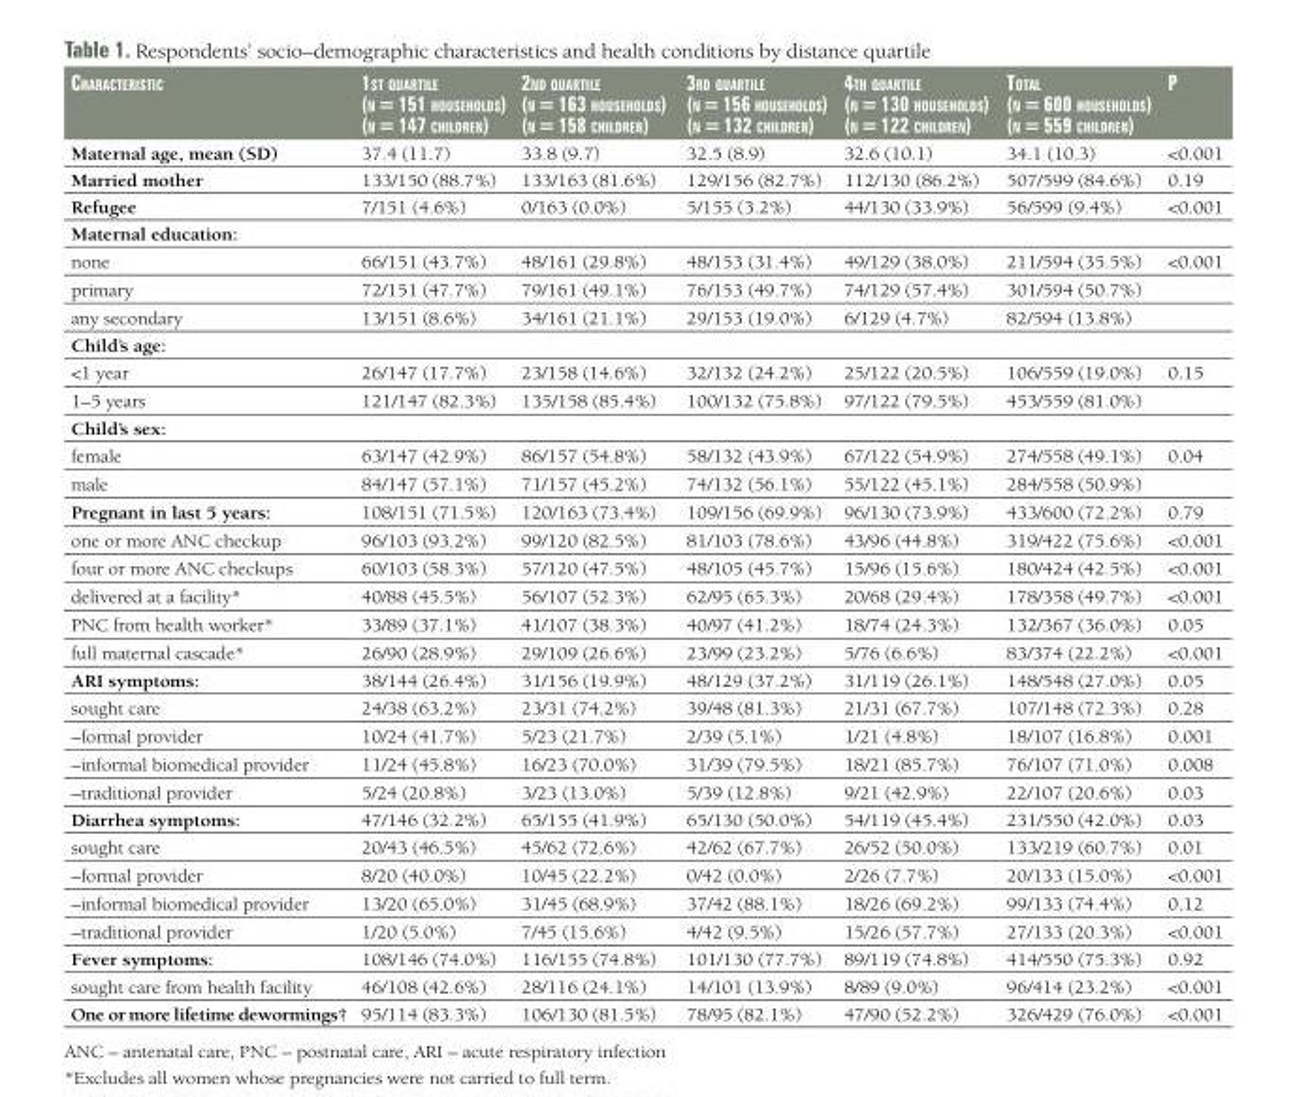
<table><thead><tr><td>CharaCteristiC</td><td>1st quartile (n = 151 households) (n = 147 Children)</td><td>2nd quartile (n = 163 households) (n = 158 Children)</td><td>3rd quartile (n = 156 households) (n = 132 Children)</td><td>4th quartile (n = 130 households) (n = 122 Children)</td><td>total (n = 600 households) (n = 559 Children)</td><td>P</td></tr></thead><tbody><tr><td>Maternal age, mean (SD)</td><td>37.4 (11.7)</td><td>33.8 (9.7)</td><td>32.5 (8.9)</td><td>32.6 (10.1)</td><td>34.1 (10.3)</td><td>&lt;0.001</td></tr><tr><td>Married mother</td><td>133/150 (88.7%)</td><td>133/163 (81.6%)</td><td>129/156 (82.7%)</td><td>112/130 (86.2%)</td><td>507/599 (84.6%)</td><td>0.19</td></tr><tr><td>Refugee</td><td>7/151 (4.6%)</td><td>0/163 (0.0%)</td><td>5/155 (3.2%)</td><td>44/130 (33.9%)</td><td>56/599 (9.4%)</td><td>&lt;0.001</td></tr><tr><td colspan="7">Maternal education:</td></tr><tr><td>none</td><td>66/151 (43.7%)</td><td>48/161 (29.8%)</td><td>48/153 (31.4%)</td><td>49/129 (38.0%)</td><td>211/594 (35.5%)</td><td>&lt;0.001</td></tr><tr><td>primary</td><td>72/151 (47.7%)</td><td>79/161 (49.1%)</td><td>76/153 (49.7%)</td><td>74/129 (57.4%)</td><td>301/594 (50.7%)</td><td></td></tr><tr><td>any secondary</td><td>13/151 (8.6%)</td><td>34/161 (21.1%)</td><td>29/153 (19.0%)</td><td>6/129 (4.7%)</td><td>82/594 (13.8%)</td><td></td></tr><tr><td colspan="7">Child’s age:</td></tr><tr><td>&lt;1 year</td><td>26/147 (17.7%)</td><td>23/158 (14.6%)</td><td>32/132 (24.2%)</td><td>25/122 (20.5%)</td><td>106/559 (19.0%)</td><td>0.15</td></tr><tr><td>1–5 years</td><td>121/147 (82.3%)</td><td>135/158 (85.4%)</td><td>100/132 (75.8%)</td><td>97/122 (79.5%)</td><td>453/559 (81.0%)</td><td></td></tr><tr><td colspan="7">Child’s sex:</td></tr><tr><td>female</td><td>63/147 (42.9%)</td><td>86/157 (54.8%)</td><td>58/132 (43.9%)</td><td>67/122 (54.9%)</td><td>274/558 (49.1%)</td><td>0.04</td></tr><tr><td>male</td><td>84/147 (57.1%)</td><td>71/157 (45.2%)</td><td>74/132 (56.1%)</td><td>55/122 (45.1%)</td><td>284/558 (50.9%)</td><td></td></tr><tr><td>Pregnant in last 5 years:</td><td>108/151 (71.5%)</td><td>120/163 (73.4%)</td><td>109/156 (69.9%)</td><td>96/130 (73.9%)</td><td>433/600 (72.2%)</td><td>0.79</td></tr><tr><td>one or more ANC checkup</td><td>96/103 (93.2%)</td><td>99/120 (82.5%)</td><td>81/103 (78.6%)</td><td>43/96 (44.8%)</td><td>319/422 (75.6%)</td><td>&lt;0.001</td></tr><tr><td>four or more ANC checkups</td><td>60/103 (58.3%)</td><td>57/120 (47.5%)</td><td>48/105 (45.7%)</td><td>15/96 (15.6%)</td><td>180/424 (42.5%)</td><td>&lt;0.001</td></tr><tr><td>delivered at a facility*</td><td>40/88 (45.5%)</td><td>56/107 (52.3%)</td><td>62/95 (65.3%)</td><td>20/68 (29.4%)</td><td>178/358 (49.7%)</td><td>&lt;0.001</td></tr><tr><td>PNC from health worker*</td><td>33/89 (37.1%)</td><td>41/107 (38.3%)</td><td>40/97 (41.2%)</td><td>18/74 (24.3%)</td><td>132/367 (36.0%)</td><td>0.05</td></tr><tr><td>full maternal cascade*</td><td>26/90 (28.9%)</td><td>29/109 (26.6%)</td><td>23/99 (23.2%)</td><td>5/76 (6.6%)</td><td>83/374 (22.2%)</td><td>&lt;0.001</td></tr><tr><td>ARI symptoms:</td><td>38/144 (26.4%)</td><td>31/156 (19.9%)</td><td>48/129 (37.2%)</td><td>31/119 (26.1%)</td><td>148/548 (27.0%)</td><td>0.05</td></tr><tr><td>sought care</td><td>24/38 (63.2%)</td><td>23/31 (74.2%)</td><td>39/48 (81.3%)</td><td>21/31 (67.7%)</td><td>107/148 (72.3%)</td><td>0.28</td></tr><tr><td>–formal provider</td><td>10/24 (41.7%)</td><td>5/23 (21.7%)</td><td>2/39 (5.1%)</td><td>1/21 (4.8%)</td><td>18/107 (16.8%)</td><td>0.001</td></tr><tr><td>–informal biomedical provider</td><td>11/24 (45.8%)</td><td>16/23 (70.0%)</td><td>31/39 (79.5%)</td><td>18/21 (85.7%)</td><td>76/107 (71.0%)</td><td>0.008</td></tr><tr><td>–traditional provider</td><td>5/24 (20.8%)</td><td>3/23 (13.0%)</td><td>5/39 (12.8%)</td><td>9/21 (42.9%)</td><td>22/107 (20.6%)</td><td>0.03</td></tr><tr><td>Diarrhea symptoms:</td><td>47/146 (32.2%)</td><td>65/155 (41.9%)</td><td>65/130 (50.0%)</td><td>54/119 (45.4%)</td><td>231/550 (42.0%)</td><td>0.03</td></tr><tr><td>sought care</td><td>20/43 (46.5%)</td><td>45/62 (72.6%)</td><td>42/62 (67.7%)</td><td>26/52 (50.0%)</td><td>133/219 (60.7%)</td><td>0.01</td></tr><tr><td>–formal provider</td><td>8/20 (40.0%)</td><td>10/45 (22.2%)</td><td>0/42 (0.0%)</td><td>2/26 (7.7%)</td><td>20/133 (15.0%)</td><td>&lt;0.001</td></tr><tr><td>–informal biomedical provider</td><td>13/20 (65.0%)</td><td>31/45 (68.9%)</td><td>37/42 (88.1%)</td><td>18/26 (69.2%)</td><td>99/133 (74.4%)</td><td>0.12</td></tr><tr><td>–traditional provider</td><td>1/20 (5.0%)</td><td>7/45 (15.6%)</td><td>4/42 (9.5%)</td><td>15/26 (57.7%)</td><td>27/133 (20.3%)</td><td>&lt;0.001</td></tr><tr><td>Fever symptoms:</td><td>108/146 (74.0%)</td><td>116/155 (74.8%)</td><td>101/130 (77.7%)</td><td>89/119 (74.8%)</td><td>414/550 (75.3%)</td><td>0.92</td></tr><tr><td>sought care from health facility</td><td>46/108 (42.6%)</td><td>28/116 (24.1%)</td><td>14/101 (13.9%)</td><td>8/89 (9.0%)</td><td>96/414 (23.2%)</td><td>&lt;0.001</td></tr><tr><td>One or more lifetime dewormings†</td><td>95/114 (83.3%)</td><td>106/130 (81.5%)</td><td>78/95 (82.1%)</td><td>47/90 (52.2%)</td><td>326/429 (76.0%)</td><td>&lt;0.001</td></tr></tbody></table>